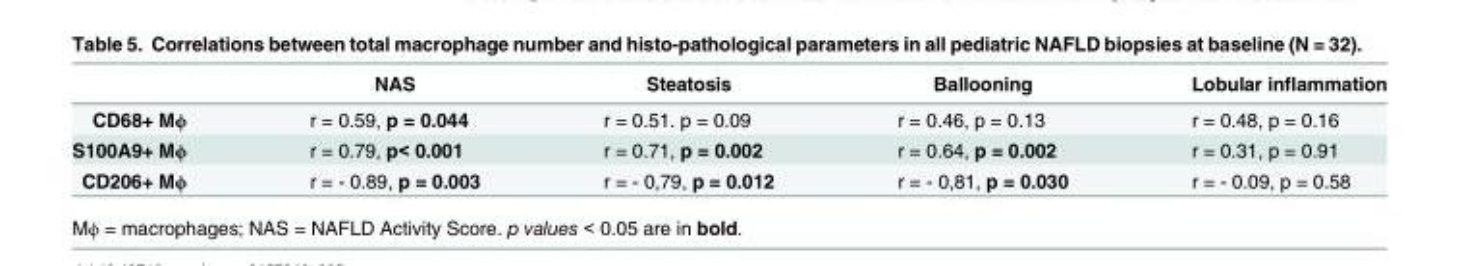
<table><thead><tr><td></td><td>NAS</td><td>Steatosis</td><td>Ballooning</td><td>Lobular inflammation</td></tr></thead><tbody><tr><td>CD68+ Mϕ</td><td>r = 0.59, p = 0.044</td><td>r = 0.51. p = 0.09</td><td>r = 0.46, p = 0.13</td><td>r = 0.48, p = 0.16</td></tr><tr><td>S100A9+ Mϕ</td><td>r = 0.79, p&lt; 0.001</td><td>r = 0.71, p = 0.002</td><td>r = 0.64, p = 0.002</td><td>r = 0.31, p = 0.91</td></tr><tr><td>CD206+ Mϕ</td><td>r = - 0.89, p = 0.003</td><td>r = - 0,79, p = 0.012</td><td>r = - 0,81, p = 0.030</td><td>r = - 0.09, p = 0.58</td></tr></tbody></table>